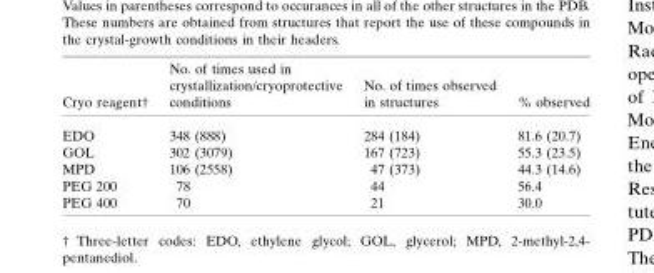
<table><thead><tr><td>Cryo reagent†</td><td>No. of times used in crystallization/cryoprotective conditions</td><td>No. of times observed in structures</td><td>% observed</td></tr></thead><tbody><tr><td>EDO</td><td>348 (888)</td><td>284 (184)</td><td>81.6 (20.7)</td></tr><tr><td>GOL</td><td>302 (3079)</td><td>167 (723)</td><td>55.3 (23.5)</td></tr><tr><td>MPD</td><td>106 (2558)</td><td>47 (373)</td><td>44.3 (14.6)</td></tr><tr><td>PEG 200</td><td>78</td><td>44</td><td>56.4</td></tr><tr><td>PEG 400</td><td>70</td><td>21</td><td>30.0</td></tr></tbody></table>